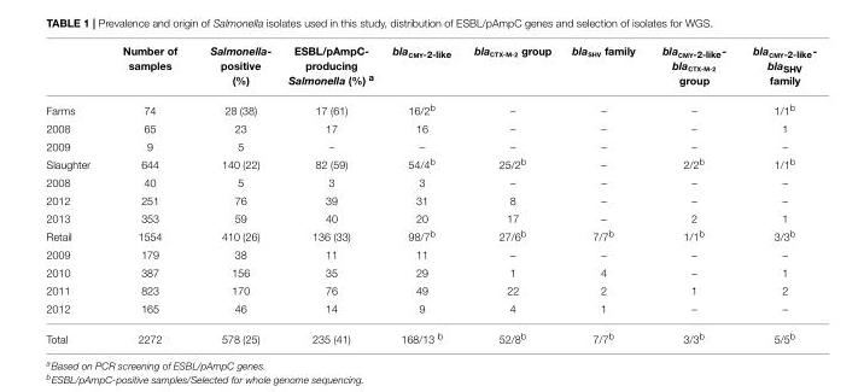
<table><thead><tr><td></td><td>Number of samples</td><td>Salmonella- positive (%)</td><td>ESBL/pAmpC- producing Salmonella (%) <sup>a</sup></td><td>bla<sub>CMY-2-like</sub></td><td>bla<sub>CTX-M-2</sub> group</td><td>bla<sub>SHV</sub> family</td><td>bla<sub>CMY-2-like</sub>- bla<sub>CTX-M-2</sub> group</td><td>bla<sub>CMY-2-like</sub>- bla<sub>SHV</sub> family</td></tr></thead><tbody><tr><td>Farms</td><td>74</td><td>28 (38)</td><td>17 (61)</td><td>16/2<sup>b</sup></td><td>–</td><td>–</td><td>–</td><td>1/1<sup>b</sup></td></tr><tr><td>2008</td><td>65</td><td>23</td><td>17</td><td>16</td><td>–</td><td>–</td><td>–</td><td>1</td></tr><tr><td>2009</td><td>9</td><td>5</td><td>–</td><td>–</td><td>–</td><td>–</td><td>–</td><td>–</td></tr><tr><td>Slaughter</td><td>644</td><td>140 (22)</td><td>82 (59)</td><td>54/4<sup>b</sup></td><td>25/2<sup>b</sup></td><td>–</td><td>2/2<sup>b</sup></td><td>1/1<sup>b</sup></td></tr><tr><td>2008</td><td>40</td><td>5</td><td>3</td><td>3</td><td>–</td><td>–</td><td>–</td><td>–</td></tr><tr><td>2012</td><td>251</td><td>76</td><td>39</td><td>31</td><td>8</td><td>–</td><td>–</td><td>–</td></tr><tr><td>2013</td><td>353</td><td>59</td><td>40</td><td>20</td><td>17</td><td>–</td><td>2</td><td>1</td></tr><tr><td>Retail</td><td>1554</td><td>410 (26)</td><td>136 (33)</td><td>98/7<sup>b</sup></td><td>27/6<sup>b</sup></td><td>7/7<sup>b</sup></td><td>1/1<sup>b</sup></td><td>3/3<sup>b</sup></td></tr><tr><td>2009</td><td>179</td><td>38</td><td>11</td><td>11</td><td>–</td><td>–</td><td>–</td><td>–</td></tr><tr><td>2010</td><td>387</td><td>156</td><td>35</td><td>29</td><td>1</td><td>4</td><td>–</td><td>1</td></tr><tr><td>2011</td><td>823</td><td>170</td><td>76</td><td>49</td><td>22</td><td>2</td><td>1</td><td>2</td></tr><tr><td>2012</td><td>165</td><td>46</td><td>14</td><td>9</td><td>4</td><td>1</td><td>–</td><td>–</td></tr><tr><td>Total</td><td>2272</td><td>578 (25)</td><td>235 (41)</td><td>168/13 <sup>b</sup></td><td>52/8<sup>b</sup></td><td>7/7<sup>b</sup></td><td>3/3<sup>b</sup></td><td>5/5<sup>b</sup></td></tr></tbody></table>